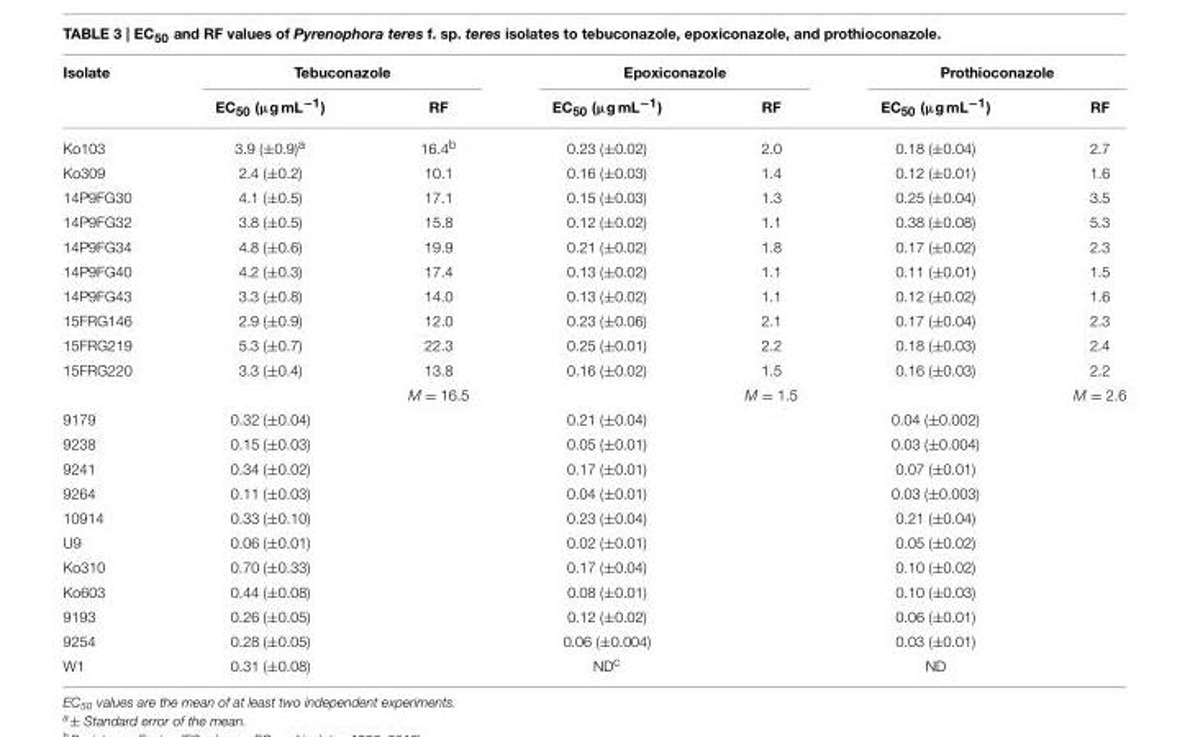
<table><thead><tr><td rowspan="2">Isolate</td><td colspan="2">Tebuconazole</td><td colspan="2">Epoxiconazole</td><td colspan="2">Prothioconazole</td></tr><tr><td>EC<sub>50</sub> (µg mL<sup>−1</sup>)</td><td>RF</td><td>EC<sub>50</sub> (µg mL<sup>−1</sup>)</td><td>RF</td><td>EC<sub>50</sub> (µg mL<sup>−1</sup>)</td><td>RF</td></tr></thead><tbody><tr><td>Ko103</td><td>3.9 (±0.9)<sup>a</sup></td><td>16.4<sup>b</sup></td><td>0.23 (±0.02)</td><td>2.0</td><td>0.18 (±0.04)</td><td>2.7</td></tr><tr><td>Ko309</td><td>2.4 (±0.2)</td><td>10.1</td><td>0.16 (±0.03)</td><td>1.4</td><td>0.12 (±0.01)</td><td>1.6</td></tr><tr><td>14P9FG30</td><td>4.1 (±0.5)</td><td>17.1</td><td>0.15 (±0.03)</td><td>1.3</td><td>0.25 (±0.04)</td><td>3.5</td></tr><tr><td>14P9FG32</td><td>3.8 (±0.5)</td><td>15.8</td><td>0.12 (±0.02)</td><td>1.1</td><td>0.38 (±0.08)</td><td>5.3</td></tr><tr><td>14P9FG34</td><td>4.8 (±0.6)</td><td>19.9</td><td>0.21 (±0.02)</td><td>1.8</td><td>0.17 (±0.02)</td><td>2.3</td></tr><tr><td>14P9FG40</td><td>4.2 (±0.3)</td><td>17.4</td><td>0.13 (±0.02)</td><td>1.1</td><td>0.11 (±0.01)</td><td>1.5</td></tr><tr><td>14P9FG43</td><td>3.3 (±0.8)</td><td>14.0</td><td>0.13 (±0.02)</td><td>1.1</td><td>0.12 (±0.02)</td><td>1.6</td></tr><tr><td>15FRG146</td><td>2.9 (±0.9)</td><td>12.0</td><td>0.23 (±0.06)</td><td>2.1</td><td>0.17 (±0.04)</td><td>2.3</td></tr><tr><td>15FRG219</td><td>5.3 (±0.7)</td><td>22.3</td><td>0.25 (±0.01)</td><td>2.2</td><td>0.18 (±0.03)</td><td>2.4</td></tr><tr><td rowspan="2">15FRG220</td><td>3.3 (±0.4)</td><td>13.8</td><td>0.16 (±0.02)</td><td>1.5</td><td>0.16 (±0.03)</td><td>2.2</td></tr><tr><td></td><td>M = 16.5</td><td></td><td>M = 1.5</td><td></td><td>M = 2.6</td></tr><tr><td>9179</td><td>0.32 (±0.04)</td><td></td><td>0.21 (±0.04)</td><td></td><td>0.04 (±0.002)</td><td></td></tr><tr><td>9238</td><td>0.15 (±0.03)</td><td></td><td>0.05 (±0.01)</td><td></td><td>0.03 (±0.004)</td><td></td></tr><tr><td>9241</td><td>0.34 (±0.02)</td><td></td><td>0.17 (±0.01)</td><td></td><td>0.07 (±0.01)</td><td></td></tr><tr><td>9264</td><td>0.11 (±0.03)</td><td></td><td>0.04 (±0.01)</td><td></td><td>0.03 (±0.003)</td><td></td></tr><tr><td>10914</td><td>0.33 (±0.10)</td><td></td><td>0.23 (±0.04)</td><td></td><td>0.21 (±0.04)</td><td></td></tr><tr><td>U9</td><td>0.06 (±0.01)</td><td></td><td>0.02 (±0.01)</td><td></td><td>0.05 (±0.02)</td><td></td></tr><tr><td>Ko310</td><td>0.70 (±0.33)</td><td></td><td>0.17 (±0.04)</td><td></td><td>0.10 (±0.02)</td><td></td></tr><tr><td>Ko603</td><td>0.44 (±0.08)</td><td></td><td>0.08 (±0.01)</td><td></td><td>0.10 (±0.03)</td><td></td></tr><tr><td>9193</td><td>0.26 (±0.05)</td><td></td><td>0.12 (±0.02)</td><td></td><td>0.06 (±0.01)</td><td></td></tr><tr><td>9254</td><td>0.28 (±0.05)</td><td></td><td>0.06 (±0.004)</td><td></td><td>0.03 (±0.01)</td><td></td></tr><tr><td>W1</td><td>0.31 (±0.08)</td><td></td><td>ND<sup>c</sup></td><td></td><td>ND</td><td></td></tr></tbody></table>